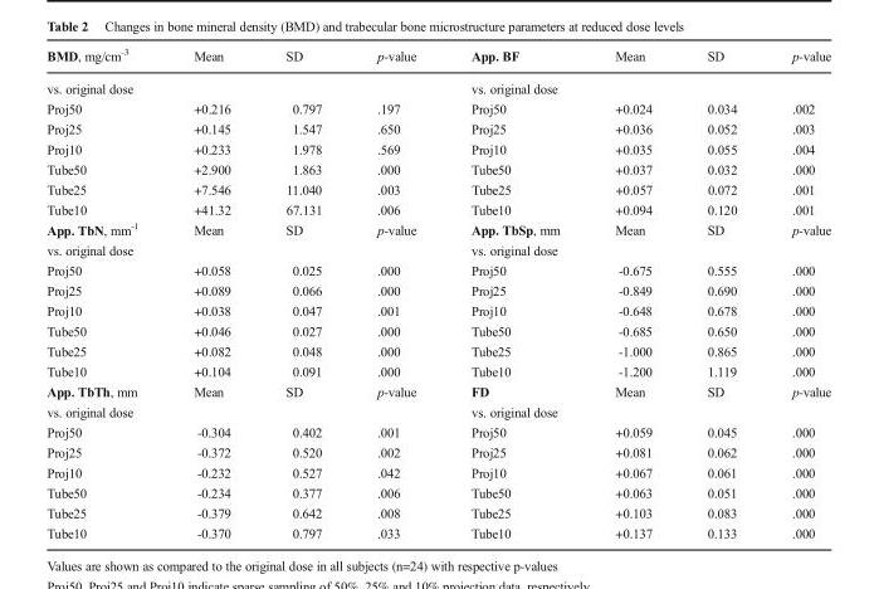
<table><thead><tr><td>BMD, mg/cm<sup>-3</sup></td><td>Mean</td><td>SD</td><td>p-value</td><td>App. BF</td><td>Mean</td><td>SD</td><td>p-value</td></tr></thead><tbody><tr><td>vs. original dose</td><td></td><td></td><td></td><td>vs. original dose</td><td></td><td></td><td></td></tr><tr><td>Proj50</td><td>+0.216</td><td>0.797</td><td>.197</td><td>Proj50</td><td>+0.024</td><td>0.034</td><td>.002</td></tr><tr><td>Proj25</td><td>+0.145</td><td>1.547</td><td>.650</td><td>Proj25</td><td>+0.036</td><td>0.052</td><td>.003</td></tr><tr><td>Proj10</td><td>+0.233</td><td>1.978</td><td>.569</td><td>Proj10</td><td>+0.035</td><td>0.055</td><td>.004</td></tr><tr><td>Tube50</td><td>+2.900</td><td>1.863</td><td>.000</td><td>Tube50</td><td>+0.037</td><td>0.032</td><td>.000</td></tr><tr><td>Tube25</td><td>+7.546</td><td>11.040</td><td>.003</td><td>Tube25</td><td>+0.057</td><td>0.072</td><td>.001</td></tr><tr><td>Tube10</td><td>+41.32</td><td>67.131</td><td>.006</td><td>Tube10</td><td>+0.094</td><td>0.120</td><td>.001</td></tr><tr><td>App. TbN, mm<sup>-1</sup></td><td>Mean</td><td>SD</td><td>p-value</td><td>App. TbSp, mm</td><td>Mean</td><td>SD</td><td>p-value</td></tr><tr><td>vs. original dose</td><td></td><td></td><td></td><td>vs. original dose</td><td></td><td></td><td></td></tr><tr><td>Proj50</td><td>+0.058</td><td>0.025</td><td>.000</td><td>Proj50</td><td>-0.675</td><td>0.555</td><td>.000</td></tr><tr><td>Proj25</td><td>+0.089</td><td>0.066</td><td>.000</td><td>Proj25</td><td>-0.849</td><td>0.690</td><td>.000</td></tr><tr><td>Proj10</td><td>+0.038</td><td>0.047</td><td>.001</td><td>Proj10</td><td>-0.648</td><td>0.678</td><td>.000</td></tr><tr><td>Tube50</td><td>+0.046</td><td>0.027</td><td>.000</td><td>Tube50</td><td>-0.685</td><td>0.650</td><td>.000</td></tr><tr><td>Tube25</td><td>+0.082</td><td>0.048</td><td>.000</td><td>Tube25</td><td>-1.000</td><td>0.865</td><td>.000</td></tr><tr><td>Tube10</td><td>+0.104</td><td>0.091</td><td>.000</td><td>Tube10</td><td>-1.200</td><td>1.119</td><td>.000</td></tr><tr><td>App. TbTh, mm</td><td>Mean</td><td>SD</td><td>p-value</td><td>FD</td><td>Mean</td><td>SD</td><td>p-value</td></tr><tr><td>vs. original dose</td><td></td><td></td><td></td><td>vs. original dose</td><td></td><td></td><td></td></tr><tr><td>Proj50</td><td>-0.304</td><td>0.402</td><td>.001</td><td>Proj50</td><td>+0.059</td><td>0.045</td><td>.000</td></tr><tr><td>Proj25</td><td>-0.372</td><td>0.520</td><td>.002</td><td>Proj25</td><td>+0.081</td><td>0.062</td><td>.000</td></tr><tr><td>Proj10</td><td>-0.232</td><td>0.527</td><td>.042</td><td>Proj10</td><td>+0.067</td><td>0.061</td><td>.000</td></tr><tr><td>Tube50</td><td>-0.234</td><td>0.377</td><td>.006</td><td>Tube50</td><td>+0.063</td><td>0.051</td><td>.000</td></tr><tr><td>Tube25</td><td>-0.379</td><td>0.642</td><td>.008</td><td>Tube25</td><td>+0.103</td><td>0.083</td><td>.000</td></tr><tr><td>Tube10</td><td>-0.370</td><td>0.797</td><td>.033</td><td>Tube10</td><td>+0.137</td><td>0.133</td><td>.000</td></tr></tbody></table>